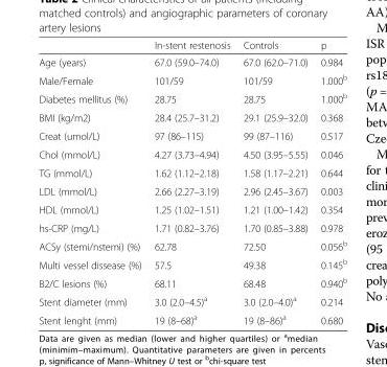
<table><thead><tr><td></td><td>In-stent restenosis</td><td>Controls</td><td>p</td></tr></thead><tbody><tr><td>Age (years)</td><td>67.0 (59.0–74.0)</td><td>67.0 (62.0–71.0)</td><td>0.984</td></tr><tr><td>Male/Female</td><td>101/59</td><td>101/59</td><td>1.000<sup>b</sup></td></tr><tr><td>Diabetes mellitus (%)</td><td>28.75</td><td>28.75</td><td>1.000<sup>b</sup></td></tr><tr><td>BMI (kg/m2)</td><td>28.4 (25.7–31.2)</td><td>29.1 (25.9–32.0)</td><td>0.368</td></tr><tr><td>Creat (umol/L)</td><td>97 (86–115)</td><td>99 (87–116)</td><td>0.517</td></tr><tr><td>Chol (mmol/L)</td><td>4.27 (3.73–4.94)</td><td>4.50 (3.95–5.55)</td><td>0.046</td></tr><tr><td>TG (mmol/L)</td><td>1.62 (1.12–2.18)</td><td>1.58 (1.17–2.21)</td><td>0.644</td></tr><tr><td>LDL (mmol/L)</td><td>2.66 (2.27–3.19)</td><td>2.96 (2.45–3.67)</td><td>0.003</td></tr><tr><td>HDL (mmol/L)</td><td>1.25 (1.02–1.51)</td><td>1.21 (1.00–1.42)</td><td>0.354</td></tr><tr><td>hs-CRP (mg/L)</td><td>1.71 (0.82–3.76)</td><td>1.70 (0.85–3.88)</td><td>0.978</td></tr><tr><td>ACSy (stemi/nstemi) (%)</td><td>62.78</td><td>72.50</td><td>0.056<sup>b</sup></td></tr><tr><td>Multi vessel dissease (%)</td><td>57.5</td><td>49.38</td><td>0.145<sup>b</sup></td></tr><tr><td>B2/C lesions (%)</td><td>68.11</td><td>68.48</td><td>0.940<sup>b</sup></td></tr><tr><td>Stent diameter (mm)</td><td>3.0 (2.0–4.5)<sup>a</sup></td><td>3.0 (2.0–4.0)<sup>a</sup></td><td>0.214</td></tr><tr><td>Stent lenght (mm)</td><td>19 (8–68)<sup>a</sup></td><td>19 (8–86)<sup>a</sup></td><td>0.680</td></tr></tbody></table>